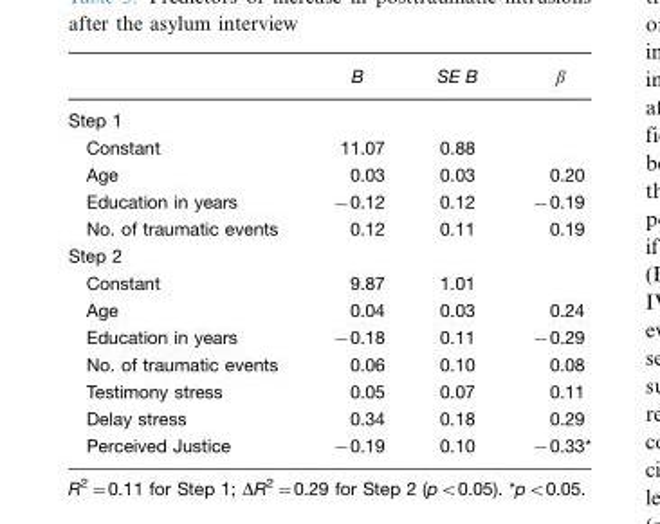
<table><thead><tr><td></td><td>B</td><td>SE B</td><td>β</td></tr></thead><tbody><tr><td colspan="4">Step 1</td></tr><tr><td>Constant</td><td>11.07</td><td>0.88</td><td></td></tr><tr><td>Age</td><td>0.03</td><td>0.03</td><td>0.20</td></tr><tr><td>Education in years</td><td>−0.12</td><td>0.12</td><td>−0.19</td></tr><tr><td>No. of traumatic events</td><td>0.12</td><td>0.11</td><td>0.19</td></tr><tr><td colspan="4">Step 2</td></tr><tr><td>Constant</td><td>9.87</td><td>1.01</td><td></td></tr><tr><td>Age</td><td>0.04</td><td>0.03</td><td>0.24</td></tr><tr><td>Education in years</td><td>−0.18</td><td>0.11</td><td>−0.29</td></tr><tr><td>No. of traumatic events</td><td>0.06</td><td>0.10</td><td>0.08</td></tr><tr><td>Testimony stress</td><td>0.05</td><td>0.07</td><td>0.11</td></tr><tr><td>Delay stress</td><td>0.34</td><td>0.18</td><td>0.29</td></tr><tr><td>Perceived Justice</td><td>−0.19</td><td>0.10</td><td>−0.33*</td></tr></tbody></table>